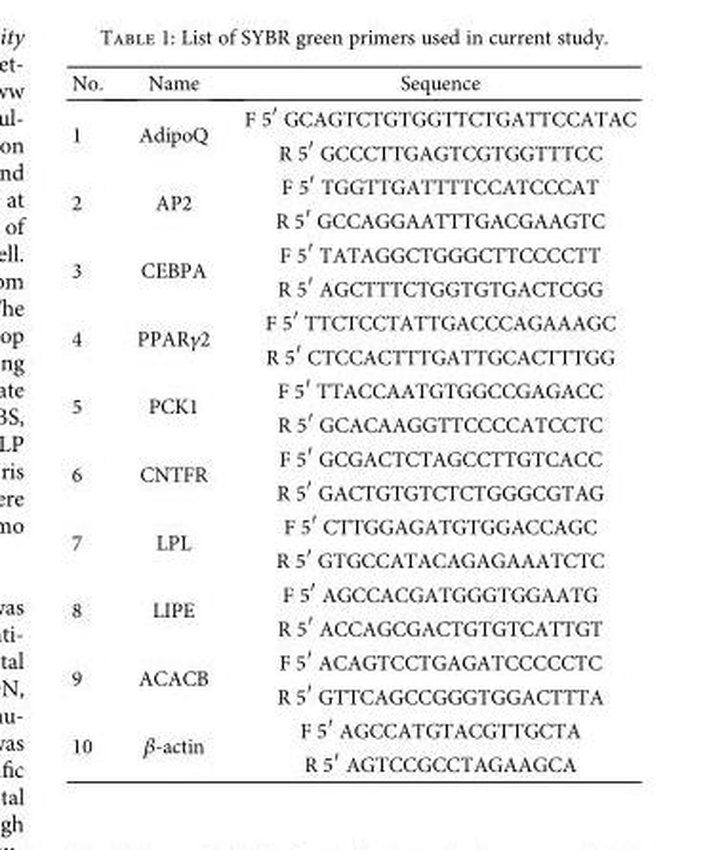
<table><thead><tr><td>No.</td><td>Name</td><td>Sequence</td></tr></thead><tbody><tr><td rowspan="2">1</td><td rowspan="2">AdipoQ</td><td>F 5′ GCAGTCTGTGGTTCTGATTCCATAC</td></tr><tr><td>R 5′ GCCCTTGAGTCGTGGTTTCC</td></tr><tr><td rowspan="2">2</td><td rowspan="2">AP2</td><td>F 5′ TGGTTGATTTTCCATCCCAT</td></tr><tr><td>R 5′ GCCAGGAATTTGACGAAGTC</td></tr><tr><td rowspan="2">3</td><td rowspan="2">CEBPA</td><td>F 5′ TATAGGCTGGGCTTCCCCTT</td></tr><tr><td>R 5′ AGCTTTCTGGTGTGACTCGG</td></tr><tr><td rowspan="2">4</td><td rowspan="2">PPARγ2</td><td>F 5′ TTCTCCTATTGACCCAGAAAGC</td></tr><tr><td>R 5′ CTCCACTTTGATTGCACTTTGG</td></tr><tr><td rowspan="2">5</td><td rowspan="2">PCK1</td><td>F 5′ TTACCAATGTGGCCGAGACC</td></tr><tr><td>R 5′ GCACAAGGTTCCCCATCCTC</td></tr><tr><td rowspan="2">6</td><td rowspan="2">CNTFR</td><td>F 5′ GCGACTCTAGCCTTGTCACC</td></tr><tr><td>R 5′ GACTGTGTCTCTGGGCGTAG</td></tr><tr><td rowspan="2">7</td><td rowspan="2">LPL</td><td>F 5′ CTTGGAGATGTGGACCAGC</td></tr><tr><td>R 5′ GTGCCATACAGAGAAATCTC</td></tr><tr><td rowspan="2">8</td><td rowspan="2">LIPE</td><td>F 5′ AGCCACGATGGGTGGAATG</td></tr><tr><td>R 5′ ACCAGCGACTGTGTCATTGT</td></tr><tr><td rowspan="2">9</td><td rowspan="2">ACACB</td><td>F 5′ ACAGTCCTGAGATCCCCCTC</td></tr><tr><td>R 5′ GTTCAGCCGGGTGGACTTTA</td></tr><tr><td rowspan="2">10</td><td rowspan="2">β-actin</td><td>F 5′ AGCCATGTACGTTGCTA</td></tr><tr><td>R 5′ AGTCCGCCTAGAAGCA</td></tr></tbody></table>